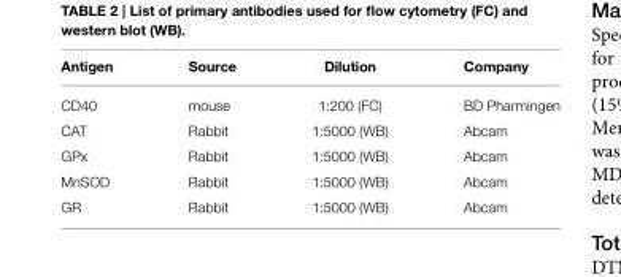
<table><thead><tr><td>Antigen</td><td>Source</td><td>Dilution</td><td>Company</td></tr></thead><tbody><tr><td>CD40</td><td>mouse</td><td>1:200 (FC)</td><td>BD Pharmingen</td></tr><tr><td>CAT</td><td>Rabbit</td><td>1:5000 (WB)</td><td>Abcam</td></tr><tr><td>GPx</td><td>Rabbit</td><td>1:5000 (WB)</td><td>Abcam</td></tr><tr><td>MnSOD</td><td>Rabbit</td><td>1:5000 (WB)</td><td>Abcam</td></tr><tr><td>GR</td><td>Rabbit</td><td>1:5000 (WB)</td><td>Abcam</td></tr></tbody></table>